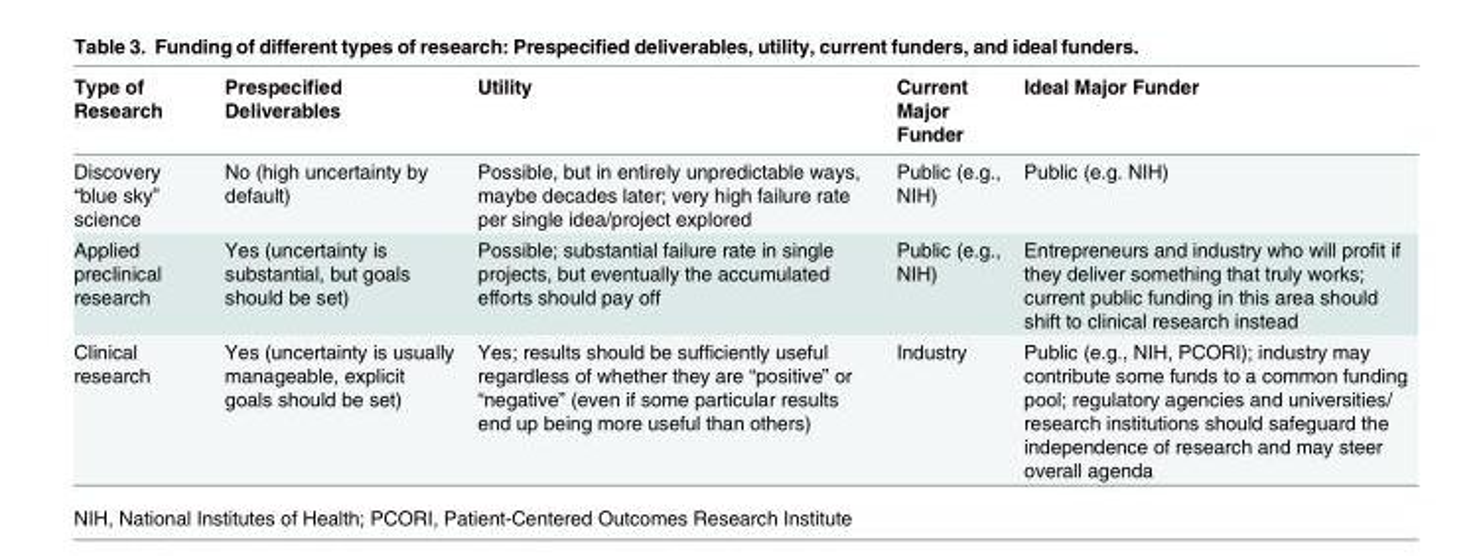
<table><thead><tr><td>Type of Research</td><td>Prespecified Deliverables</td><td>Utility</td><td>Current Major Funder</td><td>Ideal Major Funder</td></tr></thead><tbody><tr><td>Discovery “blue sky” science</td><td>No (high uncertainty by default)</td><td>Possible, but in entirely unpredictable ways, maybe decades later; very high failure rate per single idea/project explored</td><td>Public (e.g., NIH)</td><td>Public (e.g. NIH)</td></tr><tr><td>Applied preclinical research</td><td>Yes (uncertainty is substantial, but goals should be set)</td><td>Possible; substantial failure rate in single projects, but eventually the accumulated efforts should pay off</td><td>Public (e.g., NIH)</td><td>Entrepreneurs and industry who will profit if they deliver something that truly works; current public funding in this area should shift to clinical research instead</td></tr><tr><td>Clinical research</td><td>Yes (uncertainty is usually manageable, explicit goals should be set)</td><td>Yes; results should be sufficiently useful regardless of whether they are “positive” or “negative” (even if some particular results end up being more useful than others)</td><td>Industry</td><td>Public (e.g., NIH, PCORI); industry may contribute some funds to a common funding pool; regulatory agencies and universities/ research institutions should safeguard the independence of research and may steer overall agenda</td></tr></tbody></table>